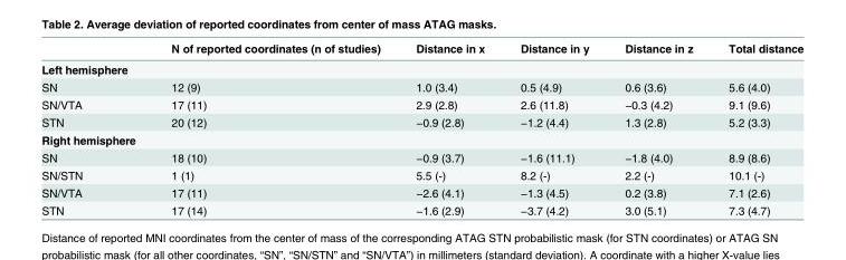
<table><thead><tr><td></td><td>N of reported coordinates (n of studies)</td><td>Distance in x</td><td>Distance in y</td><td>Distance in z</td><td>Total distance</td></tr></thead><tbody><tr><td colspan="6">Left hemisphere</td></tr><tr><td>SN</td><td>12 (9)</td><td>1.0 (3.4)</td><td>0.5 (4.9)</td><td>0.6 (3.6)</td><td>5.6 (4.0)</td></tr><tr><td>SN/VTA</td><td>17 (11)</td><td>2.9 (2.8)</td><td>2.6 (11.8)</td><td>−0.3 (4.2)</td><td>9.1 (9.6)</td></tr><tr><td>STN</td><td>20 (12)</td><td>−0.9 (2.8)</td><td>−1.2 (4.4)</td><td>1.3 (2.8)</td><td>5.2 (3.3)</td></tr><tr><td colspan="6">Right hemisphere</td></tr><tr><td>SN</td><td>18 (10)</td><td>−0.9 (3.7)</td><td>−1.6 (11.1)</td><td>−1.8 (4.0)</td><td>8.9 (8.6)</td></tr><tr><td>SN/STN</td><td>1 (1)</td><td>5.5 (-)</td><td>8.2 (-)</td><td>2.2 (-)</td><td>10.1 (-)</td></tr><tr><td>SN/VTA</td><td>17 (11)</td><td>−2.6 (4.1)</td><td>−1.3 (4.5)</td><td>0.2 (3.8)</td><td>7.1 (2.6)</td></tr><tr><td>STN</td><td>17 (14)</td><td>−1.6 (2.9)</td><td>−3.7 (4.2)</td><td>3.0 (5.1)</td><td>7.3 (4.7)</td></tr></tbody></table>